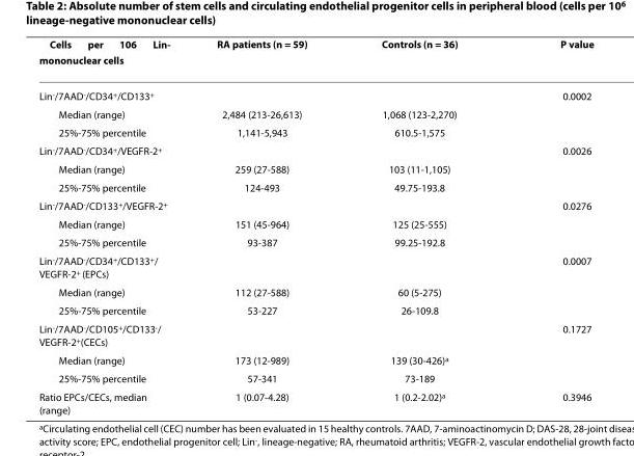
<table><thead><tr><td>Cells per 10<sup>6</sup> Lin<sup>-</sup> mononuclear cells</td><td>RA patients (n = 59)</td><td>Controls (n = 36)</td><td>P value</td></tr></thead><tbody><tr><td>Lin<sup>-</sup>/7AAD<sup>-</sup>/CD34<sup>+</sup>/CD133<sup>+</sup></td><td></td><td></td><td>0.0002</td></tr><tr><td>Median (range)</td><td>2,484 (213-26,613)</td><td>1,068 (123-2,270)</td><td></td></tr><tr><td>25%-75% percentile</td><td>1,141-5,943</td><td>610.5-1,575</td><td></td></tr><tr><td>Lin<sup>-</sup>/7AAD<sup>-</sup>/CD34<sup>+</sup>/VEGFR-2<sup>+</sup></td><td></td><td></td><td>0.0026</td></tr><tr><td>Median (range)</td><td>259 (27-588)</td><td>103 (11-1,105)</td><td></td></tr><tr><td>25%-75% percentile</td><td>124-493</td><td>49.75-193.8</td><td></td></tr><tr><td>Lin<sup>-</sup>/7AAD<sup>-</sup>/CD133<sup>+</sup>/VEGFR-2<sup>+</sup></td><td></td><td></td><td>0.0276</td></tr><tr><td>Median (range)</td><td>151 (45-964)</td><td>125 (25-555)</td><td></td></tr><tr><td>25%-75% percentile</td><td>93-387</td><td>99.25-192.8</td><td></td></tr><tr><td>Lin<sup>-</sup>/7AAD<sup>-</sup>/CD34<sup>+</sup>/CD133<sup>+</sup>/ VEGFR-2<sup>+</sup> (EPCs)</td><td></td><td></td><td>0.0007</td></tr><tr><td>Median (range)</td><td>112 (27-588)</td><td>60 (5-275)</td><td></td></tr><tr><td>25%-75% percentile</td><td>53-227</td><td>26-109.8</td><td></td></tr><tr><td>Lin<sup>-</sup>/7AAD<sup>-</sup>/CD105<sup>+</sup>/CD133<sup>-</sup>/ VEGFR-2<sup>+</sup>(CECs)</td><td></td><td></td><td>0.1727</td></tr><tr><td>Median (range)</td><td>173 (12-989)</td><td>139 (30-426)<sup>a</sup></td><td></td></tr><tr><td>25%-75% percentile</td><td>57-341</td><td>73-189</td><td></td></tr><tr><td>Ratio EPCs/CECs, median (range)</td><td>1 (0.07-4.28)</td><td>1 (0.2-2.02)<sup>a</sup></td><td>0.3946</td></tr></tbody></table>